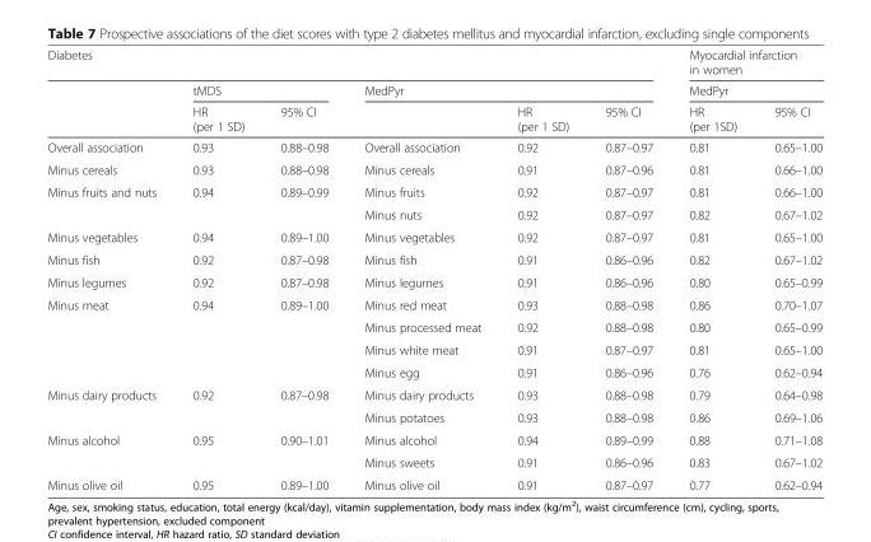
<table><thead><tr><td colspan="6">Diabetes</td><td rowspan="2" colspan="2">Myocardial infarction in women MedPyr</td></tr><tr><td rowspan="2"></td><td colspan="2">tMDS</td><td colspan="3">MedPyr</td></tr><tr><td>HR (per 1 SD)</td><td>95% CI</td><td></td><td>HR (per 1 SD)</td><td>95% CI</td><td>HR (per 1SD)</td><td>95% CI</td></tr></thead><tbody><tr><td>Overall association</td><td>0.93</td><td>0.88–0.98</td><td>Overall association</td><td>0.92</td><td>0.87–0.97</td><td>0.81</td><td>0.65–1.00</td></tr><tr><td>Minus cereals</td><td>0.93</td><td>0.88–0.98</td><td>Minus cereals</td><td>0.91</td><td>0.87–0.96</td><td>0.81</td><td>0.66–1.00</td></tr><tr><td rowspan="2">Minus fruits and nuts</td><td rowspan="2">0.94</td><td rowspan="2">0.89–0.99</td><td>Minus fruits</td><td>0.92</td><td>0.87–0.97</td><td>0.81</td><td>0.66–1.00</td></tr><tr><td>Minus nuts</td><td>0.92</td><td>0.87–0.97</td><td>0.82</td><td>0.67–1.02</td></tr><tr><td>Minus vegetables</td><td>0.94</td><td>0.89–1.00</td><td>Minus vegetables</td><td>0.92</td><td>0.87–0.97</td><td>0.81</td><td>0.65–1.00</td></tr><tr><td>Minus fish</td><td>0.92</td><td>0.87–0.98</td><td>Minus fish</td><td>0.91</td><td>0.86–0.96</td><td>0.82</td><td>0.67–1.02</td></tr><tr><td>Minus legumes</td><td>0.92</td><td>0.87–0.98</td><td>Minus legumes</td><td>0.91</td><td>0.86–0.96</td><td>0.80</td><td>0.65–0.99</td></tr><tr><td rowspan="4">Minus meat</td><td rowspan="4">0.94</td><td rowspan="4">0.89–1.00</td><td>Minus red meat</td><td>0.93</td><td>0.88–0.98</td><td>0.86</td><td>0.70–1.07</td></tr><tr><td>Minus processed meat</td><td>0.92</td><td>0.88–0.98</td><td>0.80</td><td>0.65–0.99</td></tr><tr><td>Minus white meat</td><td>0.91</td><td>0.87–0.97</td><td>0.81</td><td>0.65–1.00</td></tr><tr><td>Minus egg</td><td>0.91</td><td>0.86–0.96</td><td>0.76</td><td>0.62–0.94</td></tr><tr><td rowspan="2">Minus dairy products</td><td rowspan="2">0.92</td><td rowspan="2">0.87–0.98</td><td>Minus dairy products</td><td>0.93</td><td>0.88–0.98</td><td>0.79</td><td>0.64–0.98</td></tr><tr><td>Minus potatoes</td><td>0.93</td><td>0.88–0.98</td><td>0.86</td><td>0.69–1.06</td></tr><tr><td rowspan="2">Minus alcohol</td><td rowspan="2">0.95</td><td rowspan="2">0.90–1.01</td><td>Minus alcohol</td><td>0.94</td><td>0.89–0.99</td><td>0.88</td><td>0.71–1.08</td></tr><tr><td>Minus sweets</td><td>0.91</td><td>0.86–0.96</td><td>0.83</td><td>0.67–1.02</td></tr><tr><td>Minus olive oil</td><td>0.95</td><td>0.89–1.00</td><td>Minus olive oil</td><td>0.91</td><td>0.87–0.97</td><td>0.77</td><td>0.62–0.94</td></tr></tbody></table>